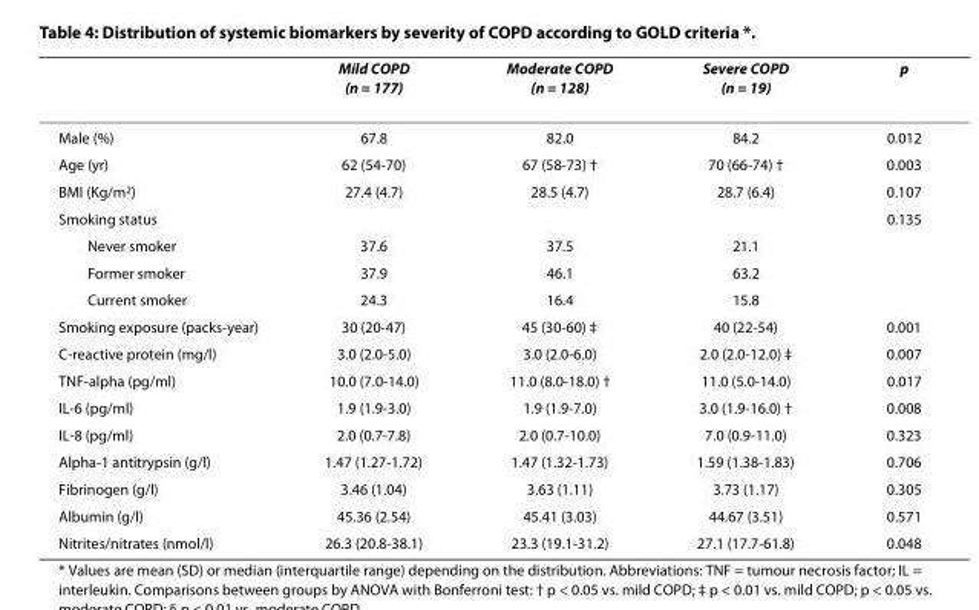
<table><thead><tr><td></td><td>Mild COPD (n = 177)</td><td>Moderate COPD (n = 128)</td><td>Severe COPD (n = 19)</td><td>p</td></tr></thead><tbody><tr><td>Male (%)</td><td>67.8</td><td>82.0</td><td>84.2</td><td>0.012</td></tr><tr><td>Age (yr)</td><td>62 (54-70)</td><td>67 (58-73) †</td><td>70 (66-74) †</td><td>0.003</td></tr><tr><td>BMI (Kg/m<sup>2</sup>)</td><td>27.4 (4.7)</td><td>28.5 (4.7)</td><td>28.7 (6.4)</td><td>0.107</td></tr><tr><td>Smoking status</td><td></td><td></td><td></td><td>0.135</td></tr><tr><td>Never smoker</td><td>37.6</td><td>37.5</td><td>21.1</td><td></td></tr><tr><td>Former smoker</td><td>37.9</td><td>46.1</td><td>63.2</td><td></td></tr><tr><td>Current smoker</td><td>24.3</td><td>16.4</td><td>15.8</td><td></td></tr><tr><td>Smoking exposure (packs-year)</td><td>30 (20-47)</td><td>45 (30-60) ‡</td><td>40 (22-54)</td><td>0.001</td></tr><tr><td>C-reactive protein (mg/l)</td><td>3.0 (2.0-5.0)</td><td>3.0 (2.0-6.0)</td><td>2.0 (2.0-12.0) ‡</td><td>0.007</td></tr><tr><td>TNF-alpha (pg/ml)</td><td>10.0 (7.0-14.0)</td><td>11.0 (8.0-18.0) †</td><td>11.0 (5.0-14.0)</td><td>0.017</td></tr><tr><td>IL-6 (pg/ml)</td><td>1.9 (1.9-3.0)</td><td>1.9 (1.9-7.0)</td><td>3.0 (1.9-16.0) †</td><td>0.008</td></tr><tr><td>IL-8 (pg/ml)</td><td>2.0 (0.7-7.8)</td><td>2.0 (0.7-10.0)</td><td>7.0 (0.9-11.0)</td><td>0.323</td></tr><tr><td>Alpha-1 antitrypsin (g/l)</td><td>1.47 (1.27-1.72)</td><td>1.47 (1.32-1.73)</td><td>1.59 (1.38-1.83)</td><td>0.706</td></tr><tr><td>Fibrinogen (g/l)</td><td>3.46 (1.04)</td><td>3.63 (1.11)</td><td>3.73 (1.17)</td><td>0.305</td></tr><tr><td>Albumin (g/l)</td><td>45.36 (2.54)</td><td>45.41 (3.03)</td><td>44.67 (3.51)</td><td>0.571</td></tr><tr><td>Nitrites/nitrates (nmol/l)</td><td>26.3 (20.8-38.1)</td><td>23.3 (19.1-31.2)</td><td>27.1 (17.7-61.8)</td><td>0.048</td></tr></tbody></table>